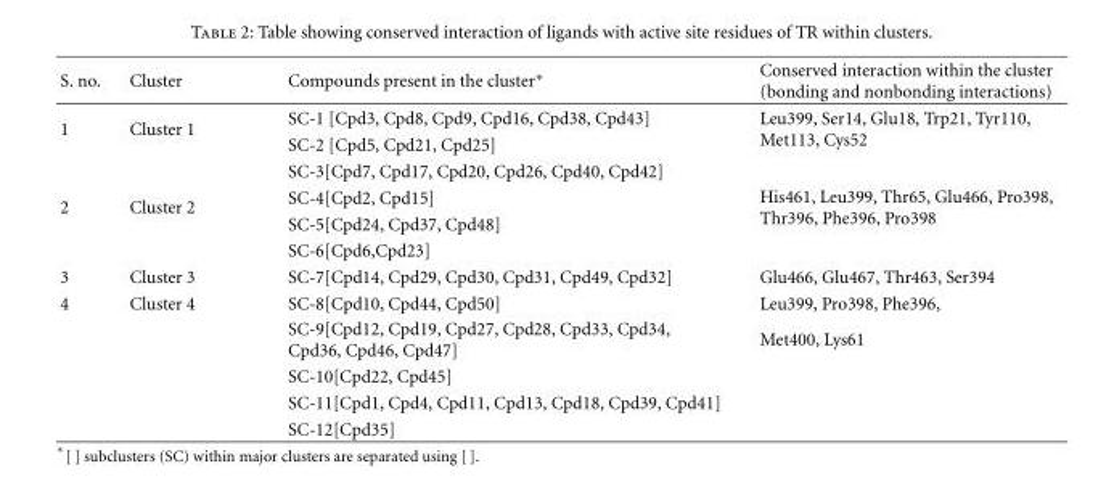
<table><thead><tr><td>S. no.</td><td>Cluster</td><td>Compounds present in the cluster∗</td><td>Conserved interaction within the cluster (bonding and nonbonding interactions)</td></tr></thead><tbody><tr><td rowspan="2">1</td><td rowspan="2">Cluster 1</td><td>SC-1 [Cpd3, Cpd8, Cpd9, Cpd16, Cpd38, Cpd43]</td><td rowspan="2">Leu399, Ser14, Glu18, Trp21, Tyr110, Met113, Cys52</td></tr><tr><td>SC-2 [Cpd5, Cpd21, Cpd25]</td></tr><tr><td rowspan="4">2</td><td rowspan="4">Cluster 2</td><td>SC-3[Cpd7, Cpd17, Cpd20, Cpd26, Cpd40, Cpd42]</td><td rowspan="4">His461, Leu399, Thr65, Glu466, Pro398, Thr396, Phe396, Pro398</td></tr><tr><td>SC-4[Cpd2, Cpd15]</td></tr><tr><td>SC-5[Cpd24, Cpd37, Cpd48]</td></tr><tr><td>SC-6[Cpd6,Cpd23]</td></tr><tr><td>3</td><td>Cluster 3</td><td>SC-7[Cpd14, Cpd29, Cpd30, Cpd31, Cpd49, Cpd32]</td><td>Glu466, Glu467, Thr463, Ser394</td></tr><tr><td rowspan="5">4</td><td>Cluster 4</td><td>SC-8[Cpd10, Cpd44, Cpd50]</td><td>Leu399, Pro398, Phe396,</td></tr><tr><td></td><td>SC-9[Cpd12, Cpd19, Cpd27, Cpd28, Cpd33, Cpd34, Cpd36, Cpd46, Cpd47]</td><td>Met400, Lys61</td></tr><tr><td></td><td>SC-10[Cpd22, Cpd45]</td><td></td></tr><tr><td></td><td>SC-11[Cpd1, Cpd4, Cpd11, Cpd13, Cpd18, Cpd39, Cpd41]</td><td></td></tr><tr><td></td><td>SC-12[Cpd35]</td><td></td></tr></tbody></table>